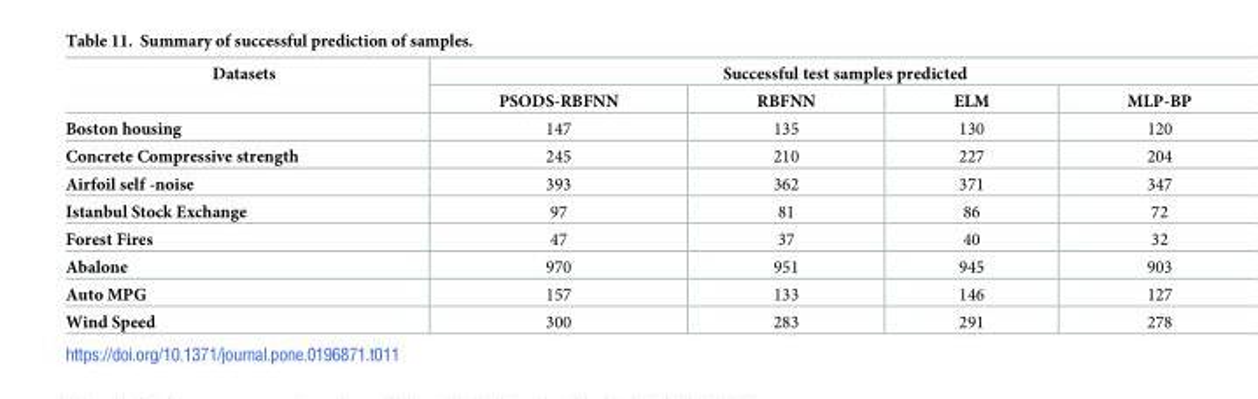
<table><thead><tr><td rowspan="2">Datasets</td><td colspan="4">Successful test samples predicted</td></tr><tr><td>PSODS-RBFNN</td><td>RBFNN</td><td>ELM</td><td>MLP-BP</td></tr></thead><tbody><tr><td>Boston housing</td><td>147</td><td>135</td><td>130</td><td>120</td></tr><tr><td>Concrete Compressive strength</td><td>245</td><td>210</td><td>227</td><td>204</td></tr><tr><td>Airfoil self -noise</td><td>393</td><td>362</td><td>371</td><td>347</td></tr><tr><td>Istanbul Stock Exchange</td><td>97</td><td>81</td><td>86</td><td>72</td></tr><tr><td>Forest Fires</td><td>47</td><td>37</td><td>40</td><td>32</td></tr><tr><td>Abalone</td><td>970</td><td>951</td><td>945</td><td>903</td></tr><tr><td>Auto MPG</td><td>157</td><td>133</td><td>146</td><td>127</td></tr><tr><td>Wind Speed</td><td>300</td><td>283</td><td>291</td><td>278</td></tr></tbody></table>